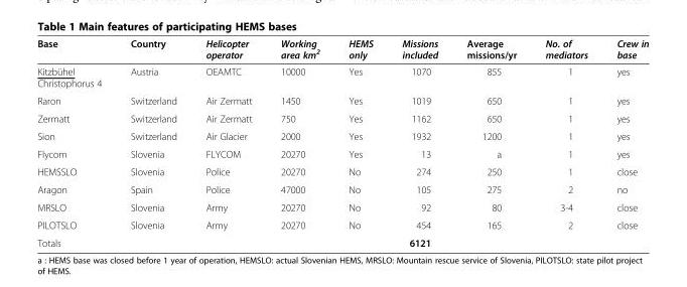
<table><thead><tr><td>Base</td><td>Country</td><td>Helicopter operator</td><td>Working area km<sup>2</sup></td><td>HEMS only</td><td>Missions included</td><td>Average missions/yr</td><td>No. of mediators</td><td>Crew in base</td></tr></thead><tbody><tr><td>Kitzbühel Christophorus 4</td><td>Austria</td><td>OEAMTC</td><td>10000</td><td>Yes</td><td>1070</td><td>855</td><td>1</td><td>yes</td></tr><tr><td>Raron</td><td>Switzerland</td><td>Air Zermatt</td><td>1450</td><td>Yes</td><td>1019</td><td>650</td><td>1</td><td>yes</td></tr><tr><td>Zermatt</td><td>Switzerland</td><td>Air Zermatt</td><td>750</td><td>Yes</td><td>1162</td><td>650</td><td>1</td><td>yes</td></tr><tr><td>Sion</td><td>Switzerland</td><td>Air Glacier</td><td>2000</td><td>Yes</td><td>1932</td><td>1200</td><td>1</td><td>yes</td></tr><tr><td>Flycom</td><td>Slovenia</td><td>FLYCOM</td><td>20270</td><td>Yes</td><td>13</td><td>a</td><td>1</td><td>yes</td></tr><tr><td>HEMSSLO</td><td>Slovenia</td><td>Police</td><td>20270</td><td>No</td><td>274</td><td>250</td><td>1</td><td>close</td></tr><tr><td>Aragon</td><td>Spain</td><td>Police</td><td>47000</td><td>No</td><td>105</td><td>275</td><td>2</td><td>no</td></tr><tr><td>MRSLO</td><td>Slovenia</td><td>Army</td><td>20270</td><td>No</td><td>92</td><td>80</td><td>3-4</td><td>close</td></tr><tr><td>PILOTSLO</td><td>Slovenia</td><td>Army</td><td>20270</td><td>No</td><td>454</td><td>165</td><td>2</td><td>close</td></tr><tr><td>Totals</td><td></td><td></td><td></td><td></td><td>6121</td><td></td><td></td><td></td></tr></tbody></table>